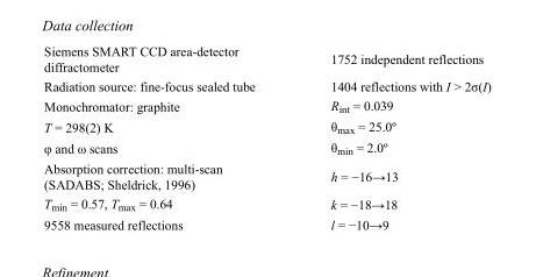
<table><tbody><tr><td>Siemens SMART CCD area-detector diffractometer</td><td>1752 independent reflections</td></tr><tr><td>Radiation source: fine-focus sealed tube</td><td>1404 reflections with I &gt; 2σ(I)</td></tr><tr><td>Monochromator: graphite</td><td>R<sub>int</sub> = 0.039</td></tr><tr><td>T = 298(2) K</td><td>θ<sub>max</sub> = 25.0º</td></tr><tr><td>φ and ω scans</td><td>θ<sub>min</sub> = 2.0º</td></tr><tr><td>Absorption correction: multi-scan (SADABS; Sheldrick, 1996)</td><td>h = −16→13</td></tr><tr><td>T<sub>min</sub> = 0.57, T<sub>max</sub> = 0.64</td><td>k = −18→18</td></tr><tr><td>9558 measured reflections</td><td>l = −10→9</td></tr></tbody></table>